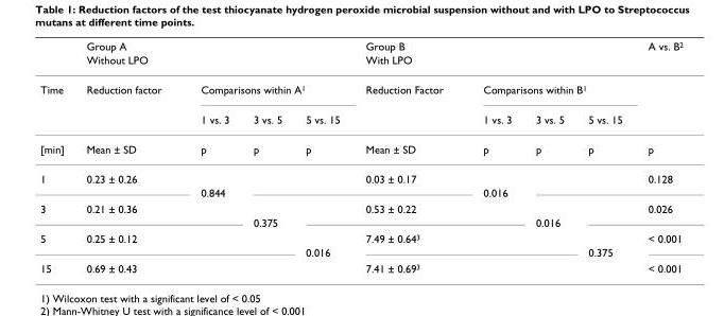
<table><thead><tr><td rowspan="4">Time</td><td rowspan="2" colspan="4">Group A Without LPO</td><td rowspan="2" colspan="4">Group B With LPO</td><td rowspan="4">A vs. B2</td></tr><tr></tr><tr><td rowspan="2">Reduction factor</td><td colspan="3">Comparisons within A1</td><td rowspan="2">Reduction Factor</td><td colspan="3">Comparisons within B1</td></tr><tr><td>1 vs. 3</td><td>3 vs. 5</td><td>5 vs. 15</td><td>1 vs. 3</td><td>3 vs. 5</td><td>5 vs. 15</td></tr></thead><tbody><tr><td>[min]</td><td>Mean ± SD</td><td>p</td><td>p</td><td>p</td><td>Mean ± SD</td><td>p</td><td>p</td><td>p</td><td>p</td></tr><tr><td>1</td><td>0.23 ± 0.26</td><td></td><td></td><td></td><td>0.03 ± 0.17</td><td></td><td></td><td></td><td>0.128</td></tr><tr><td colspan="2"></td><td>0.844</td><td colspan="3"></td><td>0.016</td><td colspan="3"></td></tr><tr><td>3</td><td>0.21 ± 0.36</td><td></td><td></td><td></td><td>0.53 ± 0.22</td><td></td><td></td><td></td><td>0.026</td></tr><tr><td colspan="3"></td><td>0.375</td><td colspan="3"></td><td>0.016</td><td colspan="2"></td></tr><tr><td>5</td><td>0.25 ± 0.12</td><td></td><td></td><td></td><td>7.49 ± 0.64<sup>3</sup></td><td></td><td></td><td></td><td>&lt; 0.001</td></tr><tr><td colspan="4"></td><td>0.016</td><td colspan="3"></td><td>0.375</td><td></td></tr><tr><td>15</td><td>0.69 ± 0.43</td><td></td><td></td><td></td><td>7.41 ± 0.69<sup>3</sup></td><td></td><td></td><td></td><td>&lt; 0.001</td></tr></tbody></table>